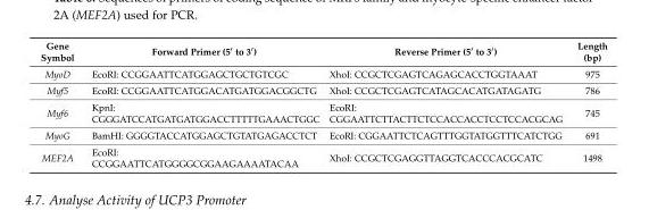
<table><thead><tr><td>Gene Symbol</td><td>Forward Primer (5′ to 3′)</td><td>Reverse Primer (5′ to 3′)</td><td>Length (bp)</td></tr></thead><tbody><tr><td>MyoD</td><td>EcoRI: CCGGAATTCATGGAGCTGCTGTCGC</td><td>XhoI: CCGCTCGAGTCAGAGCACCTGGTAAAT</td><td>975</td></tr><tr><td>Myf5</td><td>EcoRI: CCGGAATTCATGGACATGATGGACGGCTG</td><td>XhoI: CCGCTCGAGTCATAGCACATGATAGATG</td><td>786</td></tr><tr><td>Myf6</td><td>KpnI: CGGGATCCATGATGATGGACCTTTTTGAAACTGGC</td><td>EcoRI: CGGAATTCTTACTTCTCCACCACCTCCTCCACGCAG</td><td>745</td></tr><tr><td>MyoG</td><td>BamHI: GGGGTACCATGGAGCTGTATGAGACCTCT</td><td>EcoRI: CGGAATTCTCAGTTTGGTATGGTTTCATCTGG</td><td>691</td></tr><tr><td>MEF2A</td><td>EcoRI: CCGGAATTCATGGGGCGGAAGAAAATACAA</td><td>XhoI: CCGCTCGAGGTTAGGTCACCCACGCATC</td><td>1498</td></tr></tbody></table>